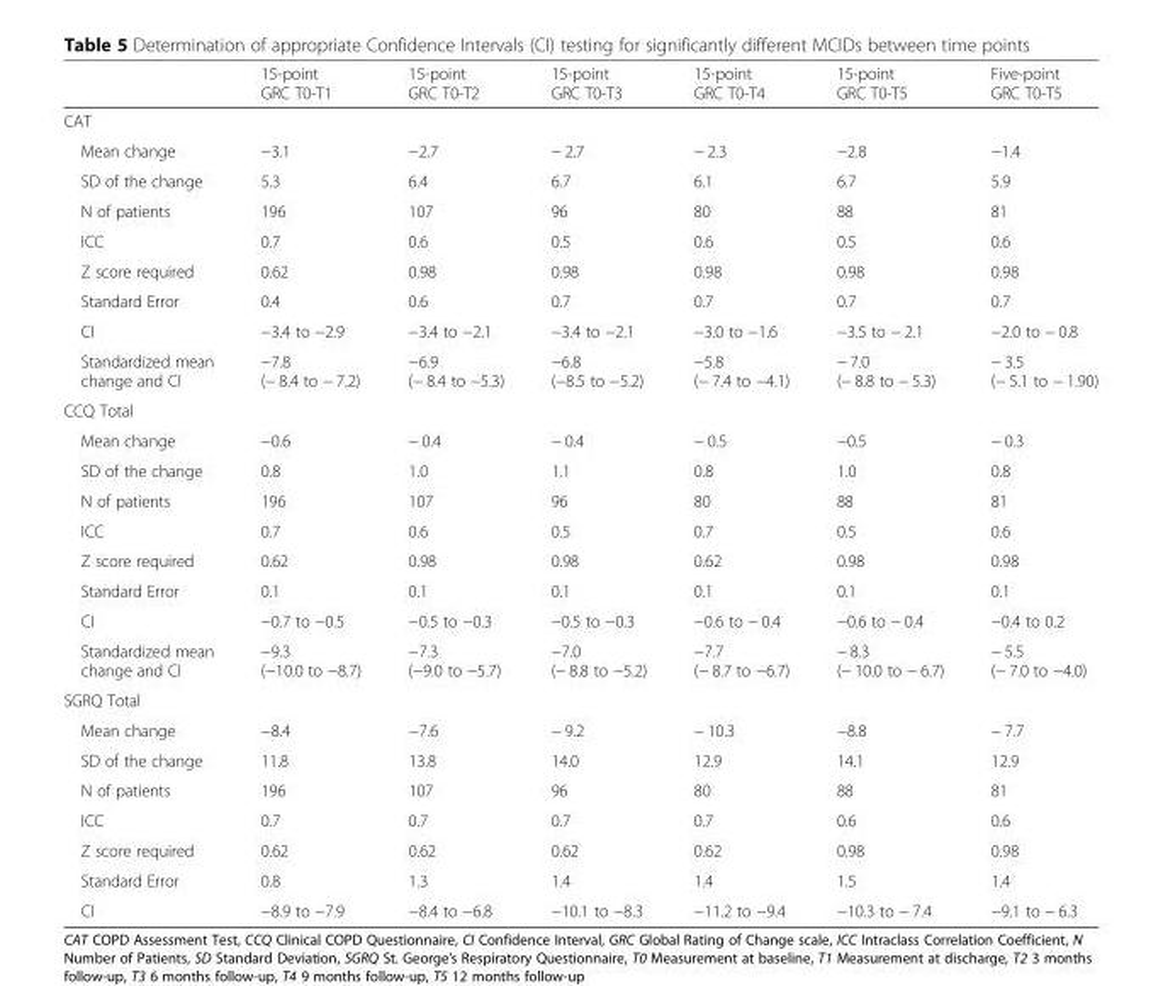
<table><thead><tr><td></td><td>15-point GRC T0-T1</td><td>15-point GRC T0-T2</td><td>15-point GRC T0-T3</td><td>15-point GRC T0-T4</td><td>15-point GRC T0-T5</td><td>Five-point GRC T0-T5</td></tr></thead><tbody><tr><td colspan="7">CAT</td></tr><tr><td>Mean change</td><td>−3.1</td><td>−2.7</td><td>− 2.7</td><td>− 2.3</td><td>−2.8</td><td>−1.4</td></tr><tr><td>SD of the change</td><td>5.3</td><td>6.4</td><td>6.7</td><td>6.1</td><td>6.7</td><td>5.9</td></tr><tr><td>N of patients</td><td>196</td><td>107</td><td>96</td><td>80</td><td>88</td><td>81</td></tr><tr><td>ICC</td><td>0.7</td><td>0.6</td><td>0.5</td><td>0.6</td><td>0.5</td><td>0.6</td></tr><tr><td>Z score required</td><td>0.62</td><td>0.98</td><td>0.98</td><td>0.98</td><td>0.98</td><td>0.98</td></tr><tr><td>Standard Error</td><td>0.4</td><td>0.6</td><td>0.7</td><td>0.7</td><td>0.7</td><td>0.7</td></tr><tr><td>CI</td><td>−3.4 to −2.9</td><td>−3.4 to −2.1</td><td>−3.4 to −2.1</td><td>−3.0 to −1.6</td><td>−3.5 to − 2.1</td><td>−2.0 to − 0.8</td></tr><tr><td>Standardized mean change and CI</td><td>−7.8 (− 8.4 to − 7.2)</td><td>−6.9 (− 8.4 to −5.3)</td><td>−6.8 (−8.5 to −5.2)</td><td>−5.8 (− 7.4 to −4.1)</td><td>− 7.0 (− 8.8 to − 5.3)</td><td>− 3.5 (− 5.1 to − 1.90)</td></tr><tr><td colspan="7">CCQ Total</td></tr><tr><td>Mean change</td><td>−0.6</td><td>− 0.4</td><td>− 0.4</td><td>− 0.5</td><td>−0.5</td><td>− 0.3</td></tr><tr><td>SD of the change</td><td>0.8</td><td>1.0</td><td>1.1</td><td>0.8</td><td>1.0</td><td>0.8</td></tr><tr><td>N of patients</td><td>196</td><td>107</td><td>96</td><td>80</td><td>88</td><td>81</td></tr><tr><td>ICC</td><td>0.7</td><td>0.6</td><td>0.5</td><td>0.7</td><td>0.5</td><td>0.6</td></tr><tr><td>Z score required</td><td>0.62</td><td>0.98</td><td>0.98</td><td>0.62</td><td>0.98</td><td>0.98</td></tr><tr><td>Standard Error</td><td>0.1</td><td>0.1</td><td>0.1</td><td>0.1</td><td>0.1</td><td>0.1</td></tr><tr><td>CI</td><td>−0.7 to −0.5</td><td>−0.5 to −0.3</td><td>−0.5 to −0.3</td><td>−0.6 to − 0.4</td><td>−0.6 to − 0.4</td><td>−0.4 to 0.2</td></tr><tr><td>Standardized mean change and CI</td><td>−9.3 (−10.0 to −8.7)</td><td>−7.3 (−9.0 to −5.7)</td><td>−7.0 (− 8.8 to −5.2)</td><td>−7.7 (− 8.7 to −6.7)</td><td>− 8.3 (− 10.0 to − 6.7)</td><td>− 5.5 (− 7.0 to −4.0)</td></tr><tr><td colspan="7">SGRQ Total</td></tr><tr><td>Mean change</td><td>−8.4</td><td>−7.6</td><td>− 9.2</td><td>− 10.3</td><td>−8.8</td><td>− 7.7</td></tr><tr><td>SD of the change</td><td>11.8</td><td>13.8</td><td>14.0</td><td>12.9</td><td>14.1</td><td>12.9</td></tr><tr><td>N of patients</td><td>196</td><td>107</td><td>96</td><td>80</td><td>88</td><td>81</td></tr><tr><td>ICC</td><td>0.7</td><td>0.7</td><td>0.7</td><td>0.7</td><td>0.6</td><td>0.6</td></tr><tr><td>Z score required</td><td>0.62</td><td>0.62</td><td>0.62</td><td>0.62</td><td>0.98</td><td>0.98</td></tr><tr><td>Standard Error</td><td>0.8</td><td>1.3</td><td>1.4</td><td>1.4</td><td>1.5</td><td>1.4</td></tr><tr><td>CI</td><td>−8.9 to −7.9</td><td>−8.4 to −6.8</td><td>−10.1 to −8.3</td><td>−11.2 to −9.4</td><td>−10.3 to − 7.4</td><td>−9.1 to − 6.3</td></tr></tbody></table>